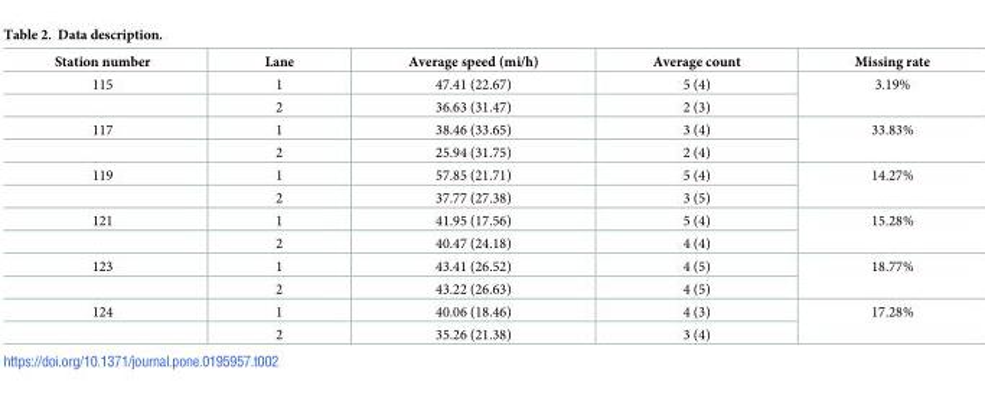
<table><thead><tr><td>Station number</td><td>Lane</td><td>Average speed (mi/h)</td><td>Average count</td><td>Missing rate</td></tr></thead><tbody><tr><td rowspan="2">115</td><td>1</td><td>47.41 (22.67)</td><td>5 (4)</td><td rowspan="2">3.19%</td></tr><tr><td>2</td><td>36.63 (31.47)</td><td>2 (3)</td></tr><tr><td rowspan="2">117</td><td>1</td><td>38.46 (33.65)</td><td>3 (4)</td><td rowspan="2">33.83%</td></tr><tr><td>2</td><td>25.94 (31.75)</td><td>2 (4)</td></tr><tr><td rowspan="2">119</td><td>1</td><td>57.85 (21.71)</td><td>5 (4)</td><td rowspan="2">14.27%</td></tr><tr><td>2</td><td>37.77 (27.38)</td><td>3 (5)</td></tr><tr><td rowspan="2">121</td><td>1</td><td>41.95 (17.56)</td><td>5 (4)</td><td rowspan="2">15.28%</td></tr><tr><td>2</td><td>40.47 (24.18)</td><td>4 (4)</td></tr><tr><td rowspan="2">123</td><td>1</td><td>43.41 (26.52)</td><td>4 (5)</td><td rowspan="2">18.77%</td></tr><tr><td>2</td><td>43.22 (26.63)</td><td>4 (5)</td></tr><tr><td rowspan="2">124</td><td>1</td><td>40.06 (18.46)</td><td>4 (3)</td><td rowspan="2">17.28%</td></tr><tr><td>2</td><td>35.26 (21.38)</td><td>3 (4)</td></tr></tbody></table>